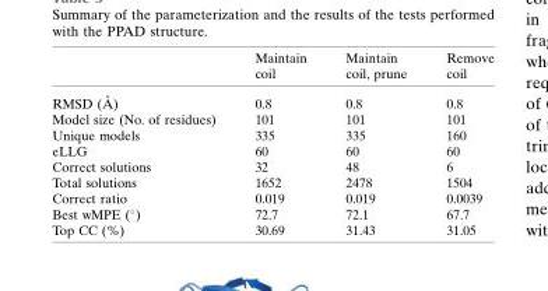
<table><thead><tr><td></td><td>Maintain coil</td><td>Maintain coil, prune</td><td>Remove coil</td></tr></thead><tbody><tr><td>RMSD (A˚ )</td><td>0.8</td><td>0.8</td><td>0.8</td></tr><tr><td>Model size (No. of residues)</td><td>101</td><td>101</td><td>101</td></tr><tr><td>Unique models</td><td>335</td><td>335</td><td>160</td></tr><tr><td>eLLG</td><td>60</td><td>60</td><td>60</td></tr><tr><td>Correct solutions</td><td>32</td><td>48</td><td>6</td></tr><tr><td>Total solutions</td><td>1652</td><td>2478</td><td>1504</td></tr><tr><td>Correct ratio</td><td>0.019</td><td>0.019</td><td>0.0039</td></tr><tr><td>Best wMPE (°)</td><td>72.7</td><td>72.1</td><td>67.7</td></tr><tr><td>Top CC (%)</td><td>30.69</td><td>31.43</td><td>31.05</td></tr></tbody></table>